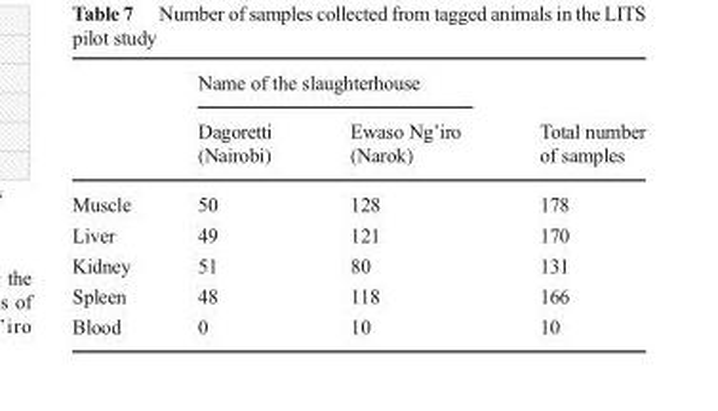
<table><thead><tr><td rowspan="2"></td><td colspan="2">Name of the slaughterhouse</td><td rowspan="2">Total number of samples</td></tr><tr><td>Dagoretti (Nairobi)</td><td>Ewaso Ng’iro (Narok)</td></tr></thead><tbody><tr><td>Muscle</td><td>50</td><td>128</td><td>178</td></tr><tr><td>Liver</td><td>49</td><td>121</td><td>170</td></tr><tr><td>Kidney</td><td>51</td><td>80</td><td>131</td></tr><tr><td>Spleen</td><td>48</td><td>118</td><td>166</td></tr><tr><td>Blood</td><td>0</td><td>10</td><td>10</td></tr></tbody></table>